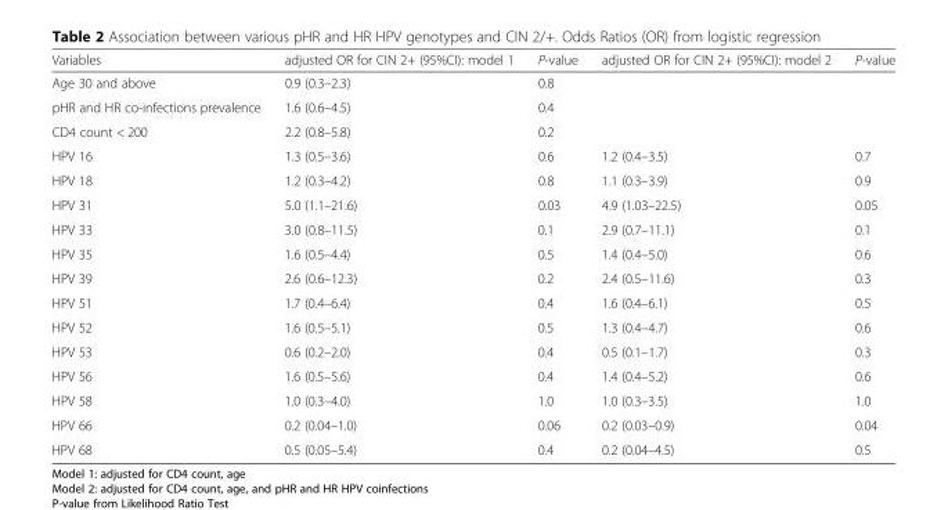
<table><thead><tr><td>Variables</td><td>adjusted OR for CIN 2+ (95%CI): model 1</td><td>P-value</td><td>adjusted OR for CIN 2+ (95%CI): model 2</td><td>P-value</td></tr></thead><tbody><tr><td>Age 30 and above</td><td>0.9 (0.3–2.3)</td><td>0.8</td><td></td><td></td></tr><tr><td>pHR and HR co-infections prevalence</td><td>1.6 (0.6–4.5)</td><td>0.4</td><td></td><td></td></tr><tr><td>CD4 count &lt; 200</td><td>2.2 (0.8–5.8)</td><td>0.2</td><td></td><td></td></tr><tr><td>HPV 16</td><td>1.3 (0.5–3.6)</td><td>0.6</td><td>1.2 (0.4–3.5)</td><td>0.7</td></tr><tr><td>HPV 18</td><td>1.2 (0.3–4.2)</td><td>0.8</td><td>1.1 (0.3–3.9)</td><td>0.9</td></tr><tr><td>HPV 31</td><td>5.0 (1.1–21.6)</td><td>0.03</td><td>4.9 (1.03–22.5)</td><td>0.05</td></tr><tr><td>HPV 33</td><td>3.0 (0.8–11.5)</td><td>0.1</td><td>2.9 (0.7–11.1)</td><td>0.1</td></tr><tr><td>HPV 35</td><td>1.6 (0.5–4.4)</td><td>0.5</td><td>1.4 (0.4–5.0)</td><td>0.6</td></tr><tr><td>HPV 39</td><td>2.6 (0.6–12.3)</td><td>0.2</td><td>2.4 (0.5–11.6)</td><td>0.3</td></tr><tr><td>HPV 51</td><td>1.7 (0.4–6.4)</td><td>0.4</td><td>1.6 (0.4–6.1)</td><td>0.5</td></tr><tr><td>HPV 52</td><td>1.6 (0.5–5.1)</td><td>0.5</td><td>1.3 (0.4–4.7)</td><td>0.6</td></tr><tr><td>HPV 53</td><td>0.6 (0.2–2.0)</td><td>0.4</td><td>0.5 (0.1–1.7)</td><td>0.3</td></tr><tr><td>HPV 56</td><td>1.6 (0.5–5.6)</td><td>0.4</td><td>1.4 (0.4–5.2)</td><td>0.6</td></tr><tr><td>HPV 58</td><td>1.0 (0.3–4.0)</td><td>1.0</td><td>1.0 (0.3–3.5)</td><td>1.0</td></tr><tr><td>HPV 66</td><td>0.2 (0.04–1.0)</td><td>0.06</td><td>0.2 (0.03–0.9)</td><td>0.04</td></tr><tr><td>HPV 68</td><td>0.5 (0.05–5.4)</td><td>0.4</td><td>0.2 (0.04–4.5)</td><td>0.5</td></tr></tbody></table>